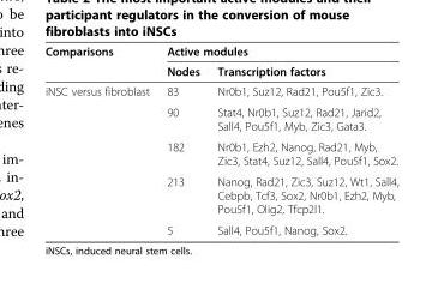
<table><thead><tr><td rowspan="2">Comparisons</td><td colspan="2">Active modules</td></tr><tr><td>Nodes</td><td>Transcription factors</td></tr></thead><tbody><tr><td rowspan="5">iNSC versus fibroblast</td><td>83</td><td>Nr0b1, Suz12, Rad21, Pou5f1, Zic3.</td></tr><tr><td>90</td><td>Stat4, Nr0b1, Suz12, Rad21, Jarid2, Sall4, Pou5f1, Myb, Zic3, Gata3.</td></tr><tr><td>182</td><td>Nr0b1, Ezh2, Nanog, Rad21, Myb, Zic3, Stat4, Suz12, Sall4, Pou5f1, Sox2.</td></tr><tr><td>213</td><td>Nanog, Rad21, Zic3, Suz12, Wt1, Sall4, Cebpb, Tcf3, Sox2, Nr0b1, Ezh2, Myb, Pou5f1, Olig2, Tfcp2l1.</td></tr><tr><td>5</td><td>Sall4, Pou5f1, Nanog, Sox2.</td></tr></tbody></table>